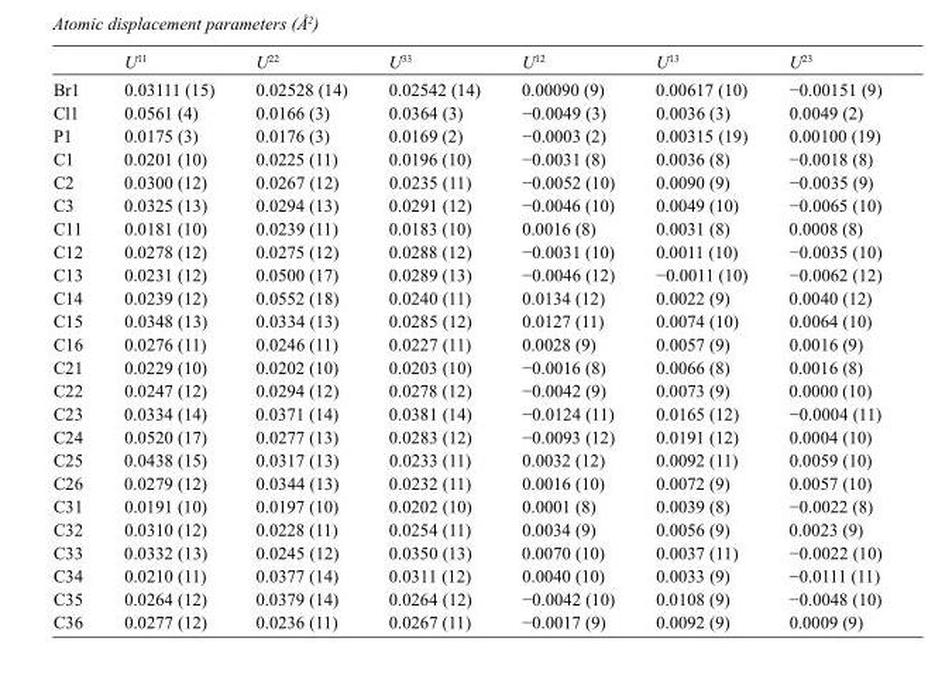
<table><thead><tr><td></td><td>U<sup>11</sup></td><td>U<sup>22</sup></td><td>U<sup>33</sup></td><td>U<sup>12</sup></td><td>U<sup>13</sup></td><td>U<sup>23</sup></td></tr></thead><tbody><tr><td>Br1</td><td>0.03111 (15)</td><td>0.02528 (14)</td><td>0.02542 (14)</td><td>0.00090 (9)</td><td>0.00617 (10)</td><td>−0.00151 (9)</td></tr><tr><td>Cl1</td><td>0.0561 (4)</td><td>0.0166 (3)</td><td>0.0364 (3)</td><td>−0.0049 (3)</td><td>0.0036 (3)</td><td>0.0049 (2)</td></tr><tr><td>P1</td><td>0.0175 (3)</td><td>0.0176 (3)</td><td>0.0169 (2)</td><td>−0.0003 (2)</td><td>0.00315 (19)</td><td>0.00100 (19)</td></tr><tr><td>C1</td><td>0.0201 (10)</td><td>0.0225 (11)</td><td>0.0196 (10)</td><td>−0.0031 (8)</td><td>0.0036 (8)</td><td>−0.0018 (8)</td></tr><tr><td>C2</td><td>0.0300 (12)</td><td>0.0267 (12)</td><td>0.0235 (11)</td><td>−0.0052 (10)</td><td>0.0090 (9)</td><td>−0.0035 (9)</td></tr><tr><td>C3</td><td>0.0325 (13)</td><td>0.0294 (13)</td><td>0.0291 (12)</td><td>−0.0046 (10)</td><td>0.0049 (10)</td><td>−0.0065 (10)</td></tr><tr><td>C11</td><td>0.0181 (10)</td><td>0.0239 (11)</td><td>0.0183 (10)</td><td>0.0016 (8)</td><td>0.0031 (8)</td><td>0.0008 (8)</td></tr><tr><td>C12</td><td>0.0278 (12)</td><td>0.0275 (12)</td><td>0.0288 (12)</td><td>−0.0031 (10)</td><td>0.0011 (10)</td><td>−0.0035 (10)</td></tr><tr><td>C13</td><td>0.0231 (12)</td><td>0.0500 (17)</td><td>0.0289 (13)</td><td>−0.0046 (12)</td><td>−0.0011 (10)</td><td>−0.0062 (12)</td></tr><tr><td>C14</td><td>0.0239 (12)</td><td>0.0552 (18)</td><td>0.0240 (11)</td><td>0.0134 (12)</td><td>0.0022 (9)</td><td>0.0040 (12)</td></tr><tr><td>C15</td><td>0.0348 (13)</td><td>0.0334 (13)</td><td>0.0285 (12)</td><td>0.0127 (11)</td><td>0.0074 (10)</td><td>0.0064 (10)</td></tr><tr><td>C16</td><td>0.0276 (11)</td><td>0.0246 (11)</td><td>0.0227 (11)</td><td>0.0028 (9)</td><td>0.0057 (9)</td><td>0.0016 (9)</td></tr><tr><td>C21</td><td>0.0229 (10)</td><td>0.0202 (10)</td><td>0.0203 (10)</td><td>−0.0016 (8)</td><td>0.0066 (8)</td><td>0.0016 (8)</td></tr><tr><td>C22</td><td>0.0247 (12)</td><td>0.0294 (12)</td><td>0.0278 (12)</td><td>−0.0042 (9)</td><td>0.0073 (9)</td><td>0.0000 (10)</td></tr><tr><td>C23</td><td>0.0334 (14)</td><td>0.0371 (14)</td><td>0.0381 (14)</td><td>−0.0124 (11)</td><td>0.0165 (12)</td><td>−0.0004 (11)</td></tr><tr><td>C24</td><td>0.0520 (17)</td><td>0.0277 (13)</td><td>0.0283 (12)</td><td>−0.0093 (12)</td><td>0.0191 (12)</td><td>0.0004 (10)</td></tr><tr><td>C25</td><td>0.0438 (15)</td><td>0.0317 (13)</td><td>0.0233 (11)</td><td>0.0032 (12)</td><td>0.0092 (11)</td><td>0.0059 (10)</td></tr><tr><td>C26</td><td>0.0279 (12)</td><td>0.0344 (13)</td><td>0.0232 (11)</td><td>0.0016 (10)</td><td>0.0072 (9)</td><td>0.0057 (10)</td></tr><tr><td>C31</td><td>0.0191 (10)</td><td>0.0197 (10)</td><td>0.0202 (10)</td><td>0.0001 (8)</td><td>0.0039 (8)</td><td>−0.0022 (8)</td></tr><tr><td>C32</td><td>0.0310 (12)</td><td>0.0228 (11)</td><td>0.0254 (11)</td><td>0.0034 (9)</td><td>0.0056 (9)</td><td>0.0023 (9)</td></tr><tr><td>C33</td><td>0.0332 (13)</td><td>0.0245 (12)</td><td>0.0350 (13)</td><td>0.0070 (10)</td><td>0.0037 (11)</td><td>−0.0022 (10)</td></tr><tr><td>C34</td><td>0.0210 (11)</td><td>0.0377 (14)</td><td>0.0311 (12)</td><td>0.0040 (10)</td><td>0.0033 (9)</td><td>−0.0111 (11)</td></tr><tr><td>C35</td><td>0.0264 (12)</td><td>0.0379 (14)</td><td>0.0264 (12)</td><td>−0.0042 (10)</td><td>0.0108 (9)</td><td>−0.0048 (10)</td></tr><tr><td>C36</td><td>0.0277 (12)</td><td>0.0236 (11)</td><td>0.0267 (11)</td><td>−0.0017 (9)</td><td>0.0092 (9)</td><td>0.0009 (9)</td></tr></tbody></table>